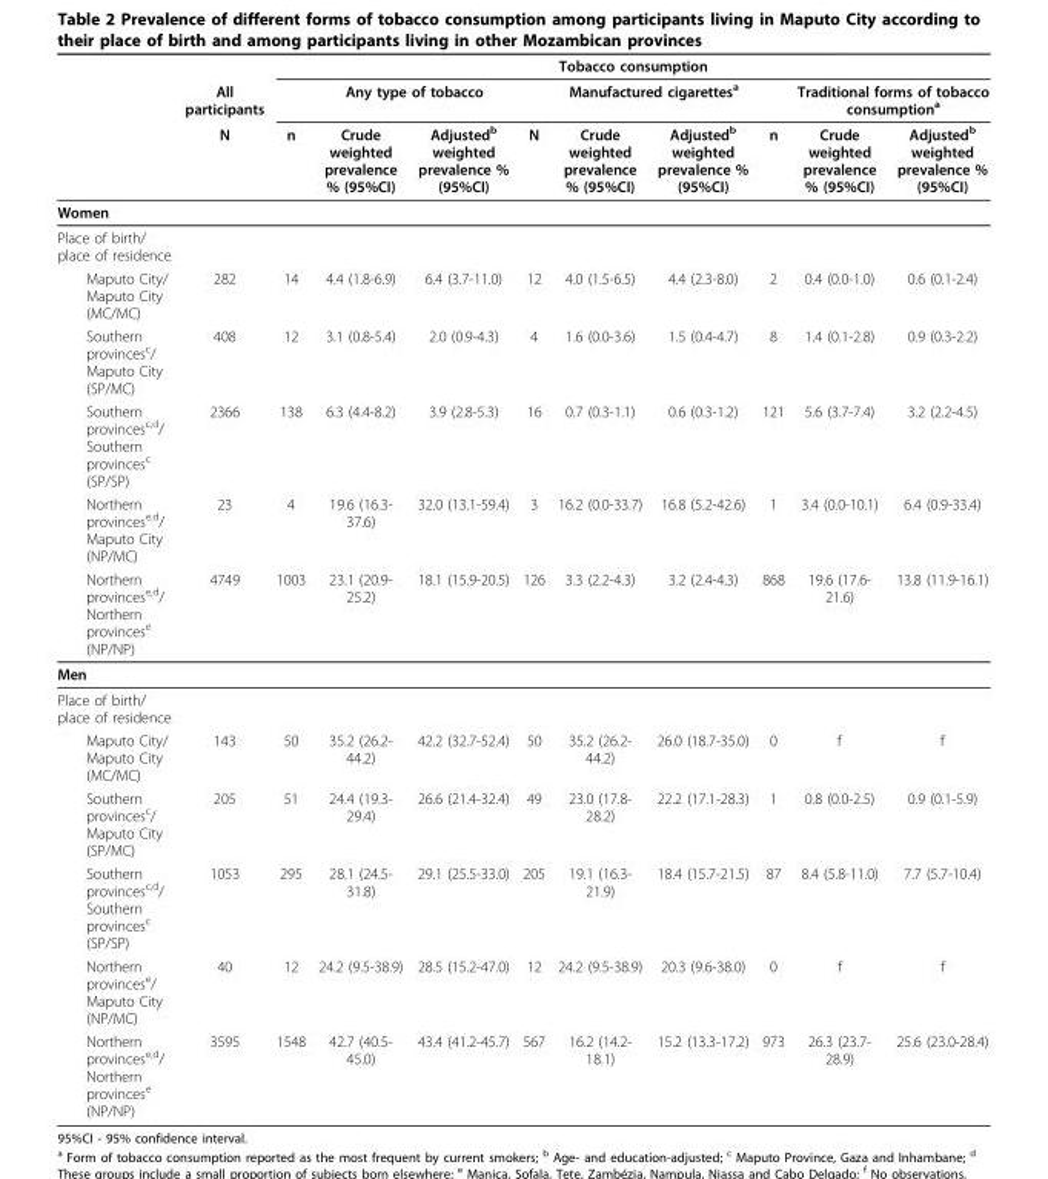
<table><thead><tr><td rowspan="3"></td><td rowspan="3">All participants N</td><td colspan="9">Tobacco consumption</td></tr><tr><td rowspan="2">n</td><td colspan="2">Any type of tobacco</td><td rowspan="2">N</td><td colspan="2">Manufactured cigarettes<sup>a</sup></td><td rowspan="2">n</td><td colspan="2">Traditional forms of tobacco consumption<sup>a</sup></td></tr><tr><td>Crude weighted prevalence % (95%CI)</td><td>Adjusted<sup>b</sup> weighted prevalence % (95%CI)</td><td>Crude weighted prevalence % (95%CI)</td><td>Adjusted<sup>b</sup> weighted prevalence % (95%CI)</td><td>Crude weighted prevalence % (95%CI)</td><td>Adjusted<sup>b</sup> weighted prevalence % (95%CI)</td></tr></thead><tbody><tr><td colspan="11">Women</td></tr><tr><td colspan="11">Place of birth/ place of residence</td></tr><tr><td>Maputo City/ Maputo City (MC/MC)</td><td>282</td><td>14</td><td>4.4 (1.8-6.9)</td><td>6.4 (3.7-11.0)</td><td>12</td><td>4.0 (1.5-6.5)</td><td>4.4 (2.3-8.0)</td><td>2</td><td>0.4 (0.0-1.0)</td><td>0.6 (0.1-2.4)</td></tr><tr><td>Southern provinces<sup>c</sup>/ Maputo City (SP/MC)</td><td>408</td><td>12</td><td>3.1 (0.8-5.4)</td><td>2.0 (0.9-4.3)</td><td>4</td><td>1.6 (0.0-3.6)</td><td>1.5 (0.4-4.7)</td><td>8</td><td>1.4 (0.1-2.8)</td><td>0.9 (0.3-2.2)</td></tr><tr><td>Southern provinces<sup>c,d</sup>/ Southern provinces<sup>c</sup> (SP/SP)</td><td>2366</td><td>138</td><td>6.3 (4.4-8.2)</td><td>3.9 (2.8-5.3)</td><td>16</td><td>0.7 (0.3-1.1)</td><td>0.6 (0.3-1.2)</td><td>121</td><td>5.6 (3.7-7.4)</td><td>3.2 (2.2-4.5)</td></tr><tr><td>Northern provinces<sup>e,d</sup>/ Maputo City (NP/MC)</td><td>23</td><td>4</td><td>19.6 (16.3- 37.6)</td><td>32.0 (13.1-59.4)</td><td>3</td><td>16.2 (0.0-33.7)</td><td>16.8 (5.2-42.6)</td><td>1</td><td>3.4 (0.0-10.1)</td><td>6.4 (0.9-33.4)</td></tr><tr><td>Northern provinces<sup>e,d</sup>/ Northern provinces<sup>e</sup> (NP/NP)</td><td>4749</td><td>1003</td><td>23.1 (20.9- 25.2)</td><td>18.1 (15.9-20.5)</td><td>126</td><td>3.3 (2.2-4.3)</td><td>3.2 (2.4-4.3)</td><td>868</td><td>19.6 (17.6- 21.6)</td><td>13.8 (11.9-16.1)</td></tr><tr><td colspan="11">Men</td></tr><tr><td colspan="11">Place of birth/ place of residence</td></tr><tr><td>Maputo City/ Maputo City (MC/MC)</td><td>143</td><td>50</td><td>35.2 (26.2- 44.2)</td><td>42.2 (32.7-52.4)</td><td>50</td><td>35.2 (26.2- 44.2)</td><td>26.0 (18.7-35.0)</td><td>0</td><td>f</td><td>f</td></tr><tr><td>Southern provinces<sup>c</sup>/ Maputo City (SP/MC)</td><td>205</td><td>51</td><td>24.4 (19.3- 29.4)</td><td>26.6 (21.4-32.4)</td><td>49</td><td>23.0 (17.8- 28.2)</td><td>22.2 (17.1-28.3)</td><td>1</td><td>0.8 (0.0-2.5)</td><td>0.9 (0.1-5.9)</td></tr><tr><td>Southern provinces<sup>c,d</sup>/ Southern provinces<sup>c</sup> (SP/SP)</td><td>1053</td><td>295</td><td>28.1 (24.5- 31.8)</td><td>29.1 (25.5-33.0)</td><td>205</td><td>19.1 (16.3- 21.9)</td><td>18.4 (15.7-21.5)</td><td>87</td><td>8.4 (5.8-11.0)</td><td>7.7 (5.7-10.4)</td></tr><tr><td>Northern provinces<sup>e</sup>/ Maputo City (NP/MC)</td><td>40</td><td>12</td><td>24.2 (9.5-38.9)</td><td>28.5 (15.2-47.0)</td><td>12</td><td>24.2 (9.5-38.9)</td><td>20.3 (9.6-38.0)</td><td>0</td><td>f</td><td>f</td></tr><tr><td>Northern provinces<sup>e,d</sup>/ Northern provinces<sup>e</sup> (NP/NP)</td><td>3595</td><td>1548</td><td>42.7 (40.5- 45.0)</td><td>43.4 (41.2-45.7)</td><td>567</td><td>16.2 (14.2- 18.1)</td><td>15.2 (13.3-17.2)</td><td>973</td><td>26.3 (23.7- 28.9)</td><td>25.6 (23.0-28.4)</td></tr></tbody></table>